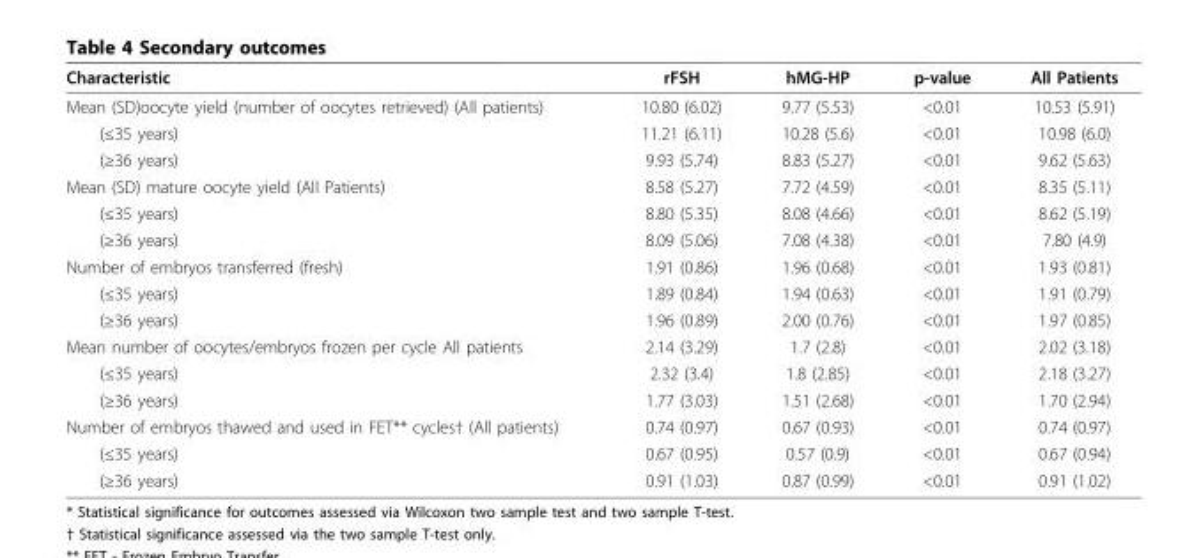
<table><thead><tr><td>Characteristic</td><td>rFSH</td><td>hMG-HP</td><td>p-value</td><td>All Patients</td></tr></thead><tbody><tr><td>Mean (SD)oocyte yield (number of oocytes retrieved) (All patients)</td><td>10.80 (6.02)</td><td>9.77 (5.53)</td><td>&lt;0.01</td><td>10.53 (5.91)</td></tr><tr><td>(≤35 years)</td><td>11.21 (6.11)</td><td>10.28 (5.6)</td><td>&lt;0.01</td><td>10.98 (6.0)</td></tr><tr><td>(≥36 years)</td><td>9.93 (5.74)</td><td>8.83 (5.27)</td><td>&lt;0.01</td><td>9.62 (5.63)</td></tr><tr><td>Mean (SD) mature oocyte yield (All Patients)</td><td>8.58 (5.27)</td><td>7.72 (4.59)</td><td>&lt;0.01</td><td>8.35 (5.11)</td></tr><tr><td>(≤35 years)</td><td>8.80 (5.35)</td><td>8.08 (4.66)</td><td>&lt;0.01</td><td>8.62 (5.19)</td></tr><tr><td>(≥36 years)</td><td>8.09 (5.06)</td><td>7.08 (4.38)</td><td>&lt;0.01</td><td>7.80 (4.9)</td></tr><tr><td>Number of embryos transferred (fresh)</td><td>1.91 (0.86)</td><td>1.96 (0.68)</td><td>&lt;0.01</td><td>1.93 (0.81)</td></tr><tr><td>(≤35 years)</td><td>1.89 (0.84)</td><td>1.94 (0.63)</td><td>&lt;0.01</td><td>1.91 (0.79)</td></tr><tr><td>(≥36 years)</td><td>1.96 (0.89)</td><td>2.00 (0.76)</td><td>&lt;0.01</td><td>1.97 (0.85)</td></tr><tr><td>Mean number of oocytes/embryos frozen per cycle All patients</td><td>2.14 (3.29)</td><td>1.7 (2.8)</td><td>&lt;0.01</td><td>2.02 (3.18)</td></tr><tr><td>(≤35 years)</td><td>2.32 (3.4)</td><td>1.8 (2.85)</td><td>&lt;0.01</td><td>2.18 (3.27)</td></tr><tr><td>(≥36 years)</td><td>1.77 (3.03)</td><td>1.51 (2.68)</td><td>&lt;0.01</td><td>1.70 (2.94)</td></tr><tr><td>Number of embryos thawed and used in FET** cycles† (All patients)</td><td>0.74 (0.97)</td><td>0.67 (0.93)</td><td>&lt;0.01</td><td>0.74 (0.97)</td></tr><tr><td>(≤35 years)</td><td>0.67 (0.95)</td><td>0.57 (0.9)</td><td>&lt;0.01</td><td>0.67 (0.94)</td></tr><tr><td>(≥36 years)</td><td>0.91 (1.03)</td><td>0.87 (0.99)</td><td>&lt;0.01</td><td>0.91 (1.02)</td></tr></tbody></table>